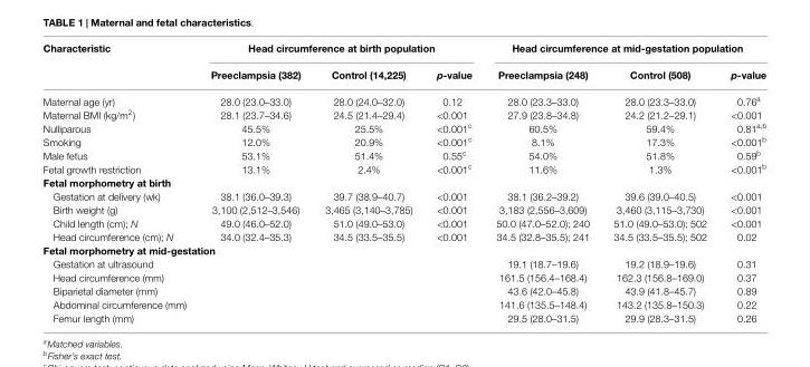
<table><thead><tr><td rowspan="2">Characteristic</td><td colspan="3">Head circumference at birth population</td><td colspan="3">Head circumference at mid-gestation population</td></tr><tr><td>Preeclampsia (382)</td><td>Control (14,225)</td><td>p-value</td><td>Preeclampsia (248)</td><td>Control (508)</td><td>p-value</td></tr></thead><tbody><tr><td>Maternal age (yr)</td><td>28.0 (23.0–33.0)</td><td>28.0 (24.0–32.0)</td><td>0.12</td><td>28.0 (23.3–33.0)</td><td>28.0 (23.3–33.0)</td><td>0.76<sup>a</sup></td></tr><tr><td>Maternal BMI (kg/m<sup>2</sup>)</td><td>28.1 (23.7–34.6)</td><td>24.5 (21.4–29.4)</td><td>&lt;0.001</td><td>27.9 (23.8–34.8)</td><td>24.2 (21.2–29.1)</td><td>&lt;0.001</td></tr><tr><td>Nulliparous</td><td>45.5%</td><td>25.5%</td><td>&lt;0.001<sup>c</sup></td><td>60.5%</td><td>59.4%</td><td>0.81<sup>a,b</sup></td></tr><tr><td>Smoking</td><td>12.0%</td><td>20.9%</td><td>&lt;0.001<sup>c</sup></td><td>8.1%</td><td>17.3%</td><td>&lt;0.001<sup>b</sup></td></tr><tr><td>Male fetus</td><td>53.1%</td><td>51.4%</td><td>0.55<sup>c</sup></td><td>54.0%</td><td>51.8%</td><td>0.59<sup>b</sup></td></tr><tr><td>Fetal growth restriction</td><td>13.1%</td><td>2.4%</td><td>&lt;0.001<sup>c</sup></td><td>11.6%</td><td>1.3%</td><td>&lt;0.001<sup>b</sup></td></tr><tr><td colspan="7">Fetal morphometry at birth</td></tr><tr><td>Gestation at delivery (wk)</td><td>38.1 (36.0–39.3)</td><td>39.7 (38.9–40.7)</td><td>&lt;0.001</td><td>38.1 (36.2–39.2)</td><td>39.6 (39.0–40.5)</td><td>&lt;0.001</td></tr><tr><td>Birth weight (g)</td><td>3,100 (2,512–3,546)</td><td>3,465 (3,140–3,785)</td><td>&lt;0.001</td><td>3,183 (2,556–3,609)</td><td>3,460 (3,115–3,730)</td><td>&lt;0.001</td></tr><tr><td>Child length (cm); N</td><td>49.0 (46.0–52.0)</td><td>51.0 (49.0–53.0)</td><td>&lt;0.001</td><td>50.0 (47.0–52.0); 240</td><td>51.0 (49.0–53.0); 502</td><td>&lt;0.001</td></tr><tr><td>Head circumference (cm); N</td><td>34.0 (32.4–35.3)</td><td>34.5 (33.5–35.5)</td><td>&lt;0.001</td><td>34.5 (32.8–35.5); 241</td><td>34.5 (33.5–35.5); 502</td><td>0.02</td></tr><tr><td colspan="7">Fetal morphometry at mid-gestation</td></tr><tr><td>Gestation at ultrasound</td><td></td><td></td><td></td><td>19.1 (18.7–19.6)</td><td>19.2 (18.9–19.6)</td><td>0.31</td></tr><tr><td>Head circumference (mm)</td><td></td><td></td><td></td><td>161.5 (156.4–168.4)</td><td>162.3 (156.8–169.0)</td><td>0.37</td></tr><tr><td>Biparietal diameter (mm)</td><td></td><td></td><td></td><td>43.6 (42.0–45.8)</td><td>43.9 (41.8–45.7)</td><td>0.89</td></tr><tr><td>Abdominal circumference (mm)</td><td></td><td></td><td></td><td>141.6 (135.5–148.4)</td><td>143.2 (135.8–150.3)</td><td>0.22</td></tr><tr><td>Femur length (mm)</td><td></td><td></td><td></td><td>29.5 (28.0–31.5)</td><td>29.9 (28.3–31.5)</td><td>0.26</td></tr></tbody></table>